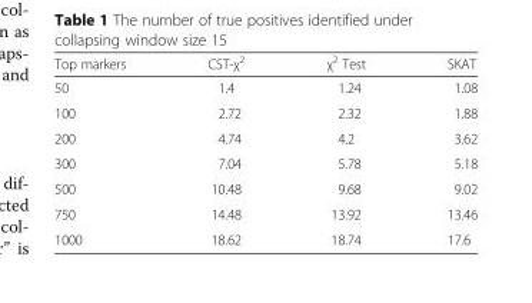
<table><thead><tr><td>Top markers</td><td>CST-χ<sup>2</sup></td><td>χ<sup>2</sup> Test</td><td>SKAT</td></tr></thead><tbody><tr><td>50</td><td>1.4</td><td>1.24</td><td>1.08</td></tr><tr><td>100</td><td>2.72</td><td>2.32</td><td>1.88</td></tr><tr><td>200</td><td>4.74</td><td>4.2</td><td>3.62</td></tr><tr><td>300</td><td>7.04</td><td>5.78</td><td>5.18</td></tr><tr><td>500</td><td>10.48</td><td>9.68</td><td>9.02</td></tr><tr><td>750</td><td>14.48</td><td>13.92</td><td>13.46</td></tr><tr><td>1000</td><td>18.62</td><td>18.74</td><td>17.6</td></tr></tbody></table>